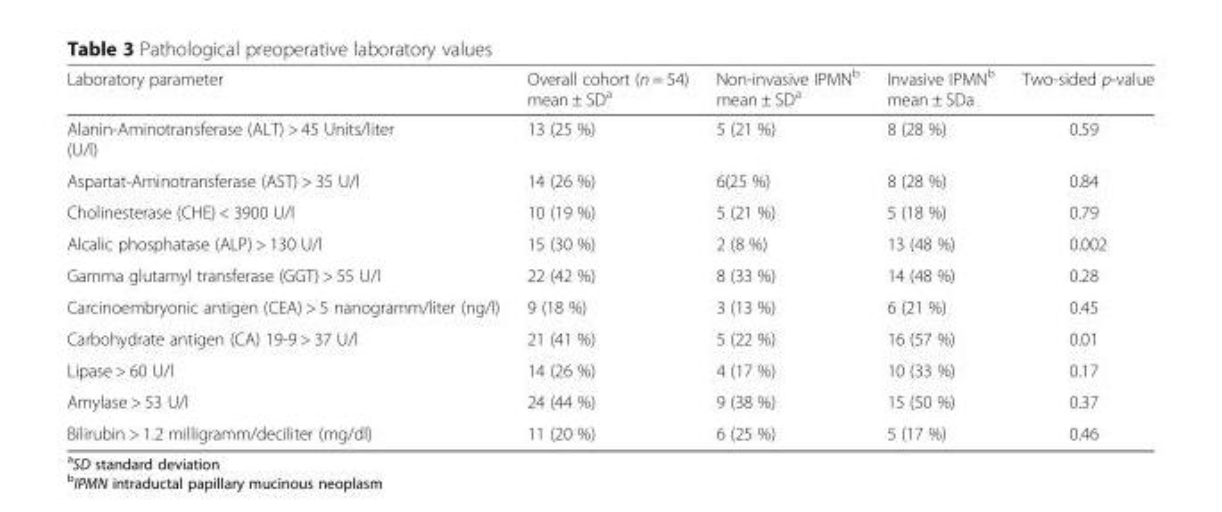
<table><thead><tr><td>Laboratory parameter</td><td>Overall cohort (n = 54) mean ± SD<sup>a</sup></td><td>Non-invasive IPMN<sup>b</sup> mean ± SD<sup>a</sup></td><td>Invasive IPMN<sup>b</sup> mean ± SDa</td><td>Two-sided p-value</td></tr></thead><tbody><tr><td>Alanin-Aminotransferase (ALT) &gt; 45 Units/liter (U/l)</td><td>13 (25 %)</td><td>5 (21 %)</td><td>8 (28 %)</td><td>0.59</td></tr><tr><td>Aspartat-Aminotransferase (AST) &gt; 35 U/l</td><td>14 (26 %)</td><td>6(25 %)</td><td>8 (28 %)</td><td>0.84</td></tr><tr><td>Cholinesterase (CHE) &lt; 3900 U/l</td><td>10 (19 %)</td><td>5 (21 %)</td><td>5 (18 %)</td><td>0.79</td></tr><tr><td>Alcalic phosphatase (ALP) &gt; 130 U/l</td><td>15 (30 %)</td><td>2 (8 %)</td><td>13 (48 %)</td><td>0.002</td></tr><tr><td>Gamma glutamyl transferase (GGT) &gt; 55 U/l</td><td>22 (42 %)</td><td>8 (33 %)</td><td>14 (48 %)</td><td>0.28</td></tr><tr><td>Carcinoembryonic antigen (CEA) &gt; 5 nanogramm/liter (ng/l)</td><td>9 (18 %)</td><td>3 (13 %)</td><td>6 (21 %)</td><td>0.45</td></tr><tr><td>Carbohydrate antigen (CA) 19-9 &gt; 37 U/l</td><td>21 (41 %)</td><td>5 (22 %)</td><td>16 (57 %)</td><td>0.01</td></tr><tr><td>Lipase &gt; 60 U/l</td><td>14 (26 %)</td><td>4 (17 %)</td><td>10 (33 %)</td><td>0.17</td></tr><tr><td>Amylase &gt; 53 U/l</td><td>24 (44 %)</td><td>9 (38 %)</td><td>15 (50 %)</td><td>0.37</td></tr><tr><td>Bilirubin &gt; 1.2 milligramm/deciliter (mg/dl)</td><td>11 (20 %)</td><td>6 (25 %)</td><td>5 (17 %)</td><td>0.46</td></tr></tbody></table>